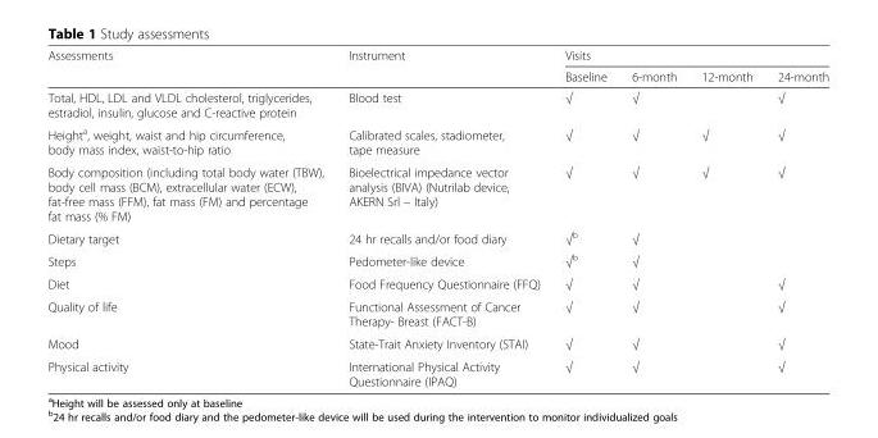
<table><thead><tr><td rowspan="2">Assessments</td><td rowspan="2">Instrument</td><td colspan="4">Visits</td></tr><tr><td>Baseline</td><td>6-month</td><td>12-month</td><td>24-month</td></tr></thead><tbody><tr><td>Total, HDL, LDL and VLDL cholesterol, triglycerides, estradiol, insulin, glucose and C-reactive protein</td><td>Blood test</td><td>√</td><td>√</td><td></td><td>√</td></tr><tr><td>Height<sup>a</sup>, weight, waist and hip circumference, body mass index, waist-to-hip ratio</td><td>Calibrated scales, stadiometer, tape measure</td><td>√</td><td>√</td><td>√</td><td>√</td></tr><tr><td>Body composition (including total body water (TBW), body cell mass (BCM), extracellular water (ECW), fat-free mass (FFM), fat mass (FM) and percentage fat mass (% FM)</td><td>Bioelectrical impedance vector analysis (BIVA) (Nutrilab device, AKERN Srl – Italy)</td><td>√</td><td>√</td><td>√</td><td>√</td></tr><tr><td>Dietary target</td><td>24 hr recalls and/or food diary</td><td>√<sup>b</sup></td><td>√</td><td></td><td></td></tr><tr><td>Steps</td><td>Pedometer-like device</td><td>√<sup>b</sup></td><td>√</td><td></td><td></td></tr><tr><td>Diet</td><td>Food Frequency Questionnaire (FFQ)</td><td>√</td><td>√</td><td></td><td>√</td></tr><tr><td>Quality of life</td><td>Functional Assessment of Cancer Therapy- Breast (FACT-B)</td><td>√</td><td>√</td><td></td><td>√</td></tr><tr><td>Mood</td><td>State-Trait Anxiety Inventory (STAI)</td><td>√</td><td>√</td><td></td><td>√</td></tr><tr><td>Physical activity</td><td>International Physical Activity Questionnaire (IPAQ)</td><td>√</td><td>√</td><td></td><td>√</td></tr></tbody></table>